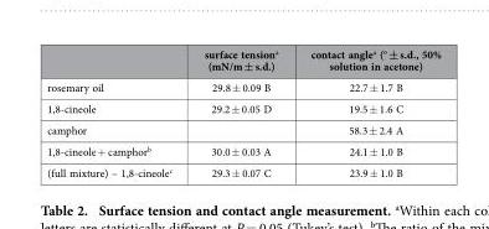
<table><thead><tr><td></td><td>surface tension<sup>a</sup> (mN/m ± s.d.)</td><td>contact angle<sup>a</sup> (° ± s.d., 50% solution in acetone)</td></tr></thead><tbody><tr><td>rosemary oil</td><td>29.8 ± 0.09 B</td><td>22.7 ± 1.7 B</td></tr><tr><td>1,8-cineole</td><td>29.2 ± 0.05 D</td><td>19.5 ± 1.6 C</td></tr><tr><td>camphor</td><td></td><td>58.3 ± 2.4 A</td></tr><tr><td>1,8-cineole + camphor<sup>b</sup></td><td>30.0 ± 0.03 A</td><td>24.1 ± 1.0 B</td></tr><tr><td>(full mixture) – 1,8-cineole<sup>c</sup></td><td>29.3 ± 0.07 C</td><td>23.9 ± 1.0 B</td></tr></tbody></table>